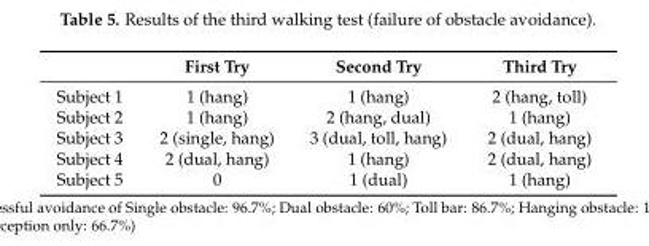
<table><thead><tr><td></td><td>First Try</td><td>Second Try</td><td>Third Try</td></tr></thead><tbody><tr><td>Subject 1</td><td>1 (hang)</td><td>1 (hang)</td><td>2 (hang, toll)</td></tr><tr><td>Subject 2</td><td>1 (hang)</td><td>2 (hang, dual)</td><td>1 (hang)</td></tr><tr><td>Subject 3</td><td>2 (single, hang)</td><td>3 (dual, toll, hang)</td><td>2 (dual, hang)</td></tr><tr><td>Subject 4</td><td>2 (dual, hang)</td><td>1 (hang)</td><td>2 (dual, hang)</td></tr><tr><td>Subject 5</td><td>0</td><td>1 (dual)</td><td>1 (hang)</td></tr></tbody></table>